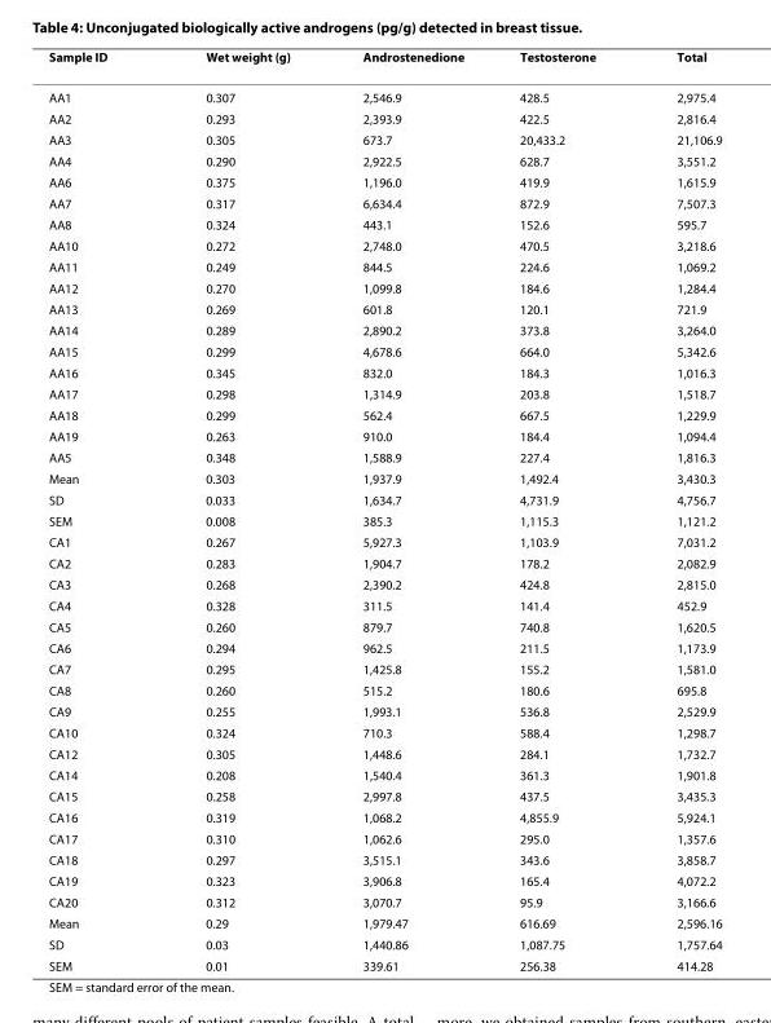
<table><thead><tr><td>Sample ID</td><td>Wet weight (g)</td><td>Androstenedione</td><td>Testosterone</td><td>Total</td></tr></thead><tbody><tr><td>AA1</td><td>0.307</td><td>2,546.9</td><td>428.5</td><td>2,975.4</td></tr><tr><td>AA2</td><td>0.293</td><td>2,393.9</td><td>422.5</td><td>2,816.4</td></tr><tr><td>AA3</td><td>0.305</td><td>673.7</td><td>20,433.2</td><td>21,106.9</td></tr><tr><td>AA4</td><td>0.290</td><td>2,922.5</td><td>628.7</td><td>3,551.2</td></tr><tr><td>AA6</td><td>0.375</td><td>1,196.0</td><td>419.9</td><td>1,615.9</td></tr><tr><td>AA7</td><td>0.317</td><td>6,634.4</td><td>872.9</td><td>7,507.3</td></tr><tr><td>AA8</td><td>0.324</td><td>443.1</td><td>152.6</td><td>595.7</td></tr><tr><td>AA10</td><td>0.272</td><td>2,748.0</td><td>470.5</td><td>3,218.6</td></tr><tr><td>AA11</td><td>0.249</td><td>844.5</td><td>224.6</td><td>1,069.2</td></tr><tr><td>AA12</td><td>0.270</td><td>1,099.8</td><td>184.6</td><td>1,284.4</td></tr><tr><td>AA13</td><td>0.269</td><td>601.8</td><td>120.1</td><td>721.9</td></tr><tr><td>AA14</td><td>0.289</td><td>2,890.2</td><td>373.8</td><td>3,264.0</td></tr><tr><td>AA15</td><td>0.299</td><td>4,678.6</td><td>664.0</td><td>5,342.6</td></tr><tr><td>AA16</td><td>0.345</td><td>832.0</td><td>184.3</td><td>1,016.3</td></tr><tr><td>AA17</td><td>0.298</td><td>1,314.9</td><td>203.8</td><td>1,518.7</td></tr><tr><td>AA18</td><td>0.299</td><td>562.4</td><td>667.5</td><td>1,229.9</td></tr><tr><td>AA19</td><td>0.263</td><td>910.0</td><td>184.4</td><td>1,094.4</td></tr><tr><td>AA5</td><td>0.348</td><td>1,588.9</td><td>227.4</td><td>1,816.3</td></tr><tr><td>Mean</td><td>0.303</td><td>1,937.9</td><td>1,492.4</td><td>3,430.3</td></tr><tr><td>SD</td><td>0.033</td><td>1,634.7</td><td>4,731.9</td><td>4,756.7</td></tr><tr><td>SEM</td><td>0.008</td><td>385.3</td><td>1,115.3</td><td>1,121.2</td></tr><tr><td>CA1</td><td>0.267</td><td>5,927.3</td><td>1,103.9</td><td>7,031.2</td></tr><tr><td>CA2</td><td>0.283</td><td>1,904.7</td><td>178.2</td><td>2,082.9</td></tr><tr><td>CA3</td><td>0.268</td><td>2,390.2</td><td>424.8</td><td>2,815.0</td></tr><tr><td>CA4</td><td>0.328</td><td>311.5</td><td>141.4</td><td>452.9</td></tr><tr><td>CA5</td><td>0.260</td><td>879.7</td><td>740.8</td><td>1,620.5</td></tr><tr><td>CA6</td><td>0.294</td><td>962.5</td><td>211.5</td><td>1,173.9</td></tr><tr><td>CA7</td><td>0.295</td><td>1,425.8</td><td>155.2</td><td>1,581.0</td></tr><tr><td>CA8</td><td>0.260</td><td>515.2</td><td>180.6</td><td>695.8</td></tr><tr><td>CA9</td><td>0.255</td><td>1,993.1</td><td>536.8</td><td>2,529.9</td></tr><tr><td>CA10</td><td>0.324</td><td>710.3</td><td>588.4</td><td>1,298.7</td></tr><tr><td>CA12</td><td>0.305</td><td>1,448.6</td><td>284.1</td><td>1,732.7</td></tr><tr><td>CA14</td><td>0.208</td><td>1,540.4</td><td>361.3</td><td>1,901.8</td></tr><tr><td>CA15</td><td>0.258</td><td>2,997.8</td><td>437.5</td><td>3,435.3</td></tr><tr><td>CA16</td><td>0.319</td><td>1,068.2</td><td>4,855.9</td><td>5,924.1</td></tr><tr><td>CA17</td><td>0.310</td><td>1,062.6</td><td>295.0</td><td>1,357.6</td></tr><tr><td>CA18</td><td>0.297</td><td>3,515.1</td><td>343.6</td><td>3,858.7</td></tr><tr><td>CA19</td><td>0.323</td><td>3,906.8</td><td>165.4</td><td>4,072.2</td></tr><tr><td>CA20</td><td>0.312</td><td>3,070.7</td><td>95.9</td><td>3,166.6</td></tr><tr><td>Mean</td><td>0.29</td><td>1,979.47</td><td>616.69</td><td>2,596.16</td></tr><tr><td>SD</td><td>0.03</td><td>1,440.86</td><td>1,087.75</td><td>1,757.64</td></tr><tr><td>SEM</td><td>0.01</td><td>339.61</td><td>256.38</td><td>414.28</td></tr></tbody></table>